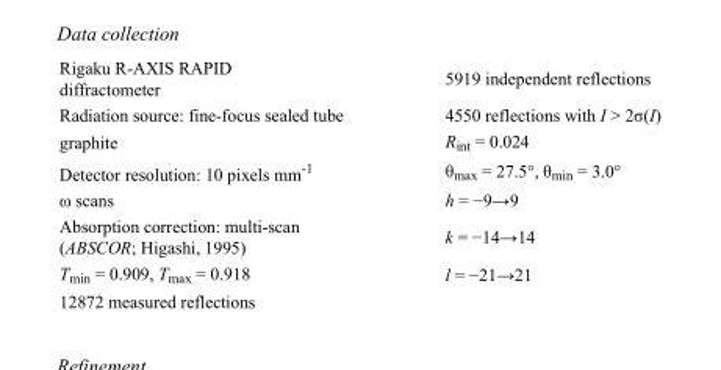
<table><tbody><tr><td>Rigaku R-AXIS RAPID diffractometer</td><td>5919 independent reflections</td></tr><tr><td>Radiation source: fine-focus sealed tube</td><td>4550 reflections with I &gt; 2σ(I)</td></tr><tr><td>graphite</td><td>R<sub>int</sub> = 0.024</td></tr><tr><td>Detector resolution: 10 pixels mm<sup>-1</sup></td><td>θ<sub>max</sub> = 27.5°, θ<sub>min</sub> = 3.0°</td></tr><tr><td>ω scans</td><td>h = −9→9</td></tr><tr><td>Absorption correction: multi-scan (ABSCOR; Higashi, 1995)</td><td>k = −14→14</td></tr><tr><td>T<sub>min</sub> = 0.909, T<sub>max</sub> = 0.918</td><td>l = −21→21</td></tr><tr><td>12872 measured reflections</td><td></td></tr></tbody></table>